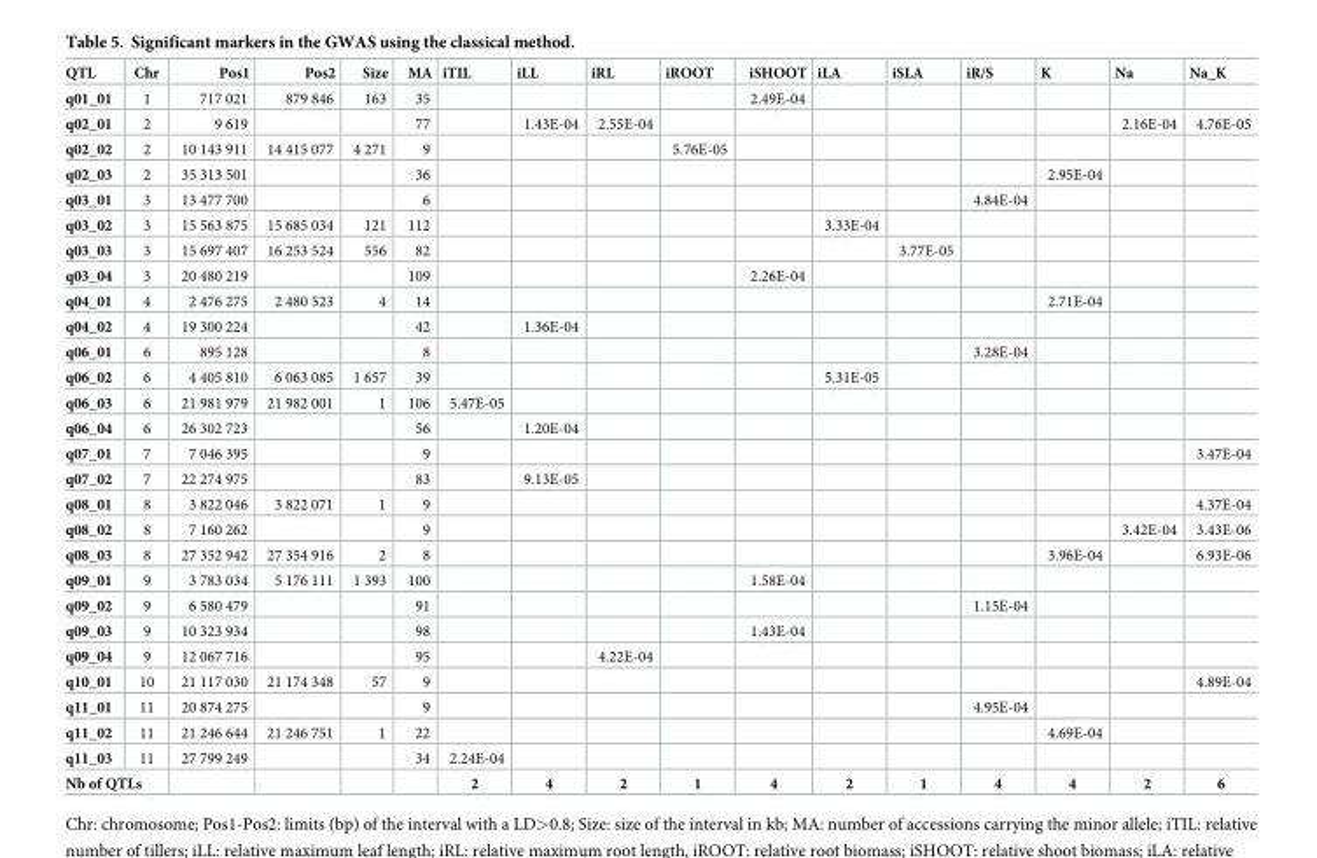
<table><thead><tr><td>QTL</td><td>Chr</td><td>Pos1</td><td>Pos2</td><td>Size</td><td>MA</td><td>iTIL</td><td>iLL</td><td>iRL</td><td>iROOT</td><td>iSHOOT</td><td>iLA</td><td>iSLA</td><td>iR/S</td><td>K</td><td>Na</td><td>Na_K</td></tr></thead><tbody><tr><td>q01_01</td><td>1</td><td>717 021</td><td>879 846</td><td>163</td><td>35</td><td></td><td></td><td></td><td></td><td>2.49E-04</td><td></td><td></td><td></td><td></td><td></td><td></td></tr><tr><td>q02_01</td><td>2</td><td>9 619</td><td></td><td></td><td>77</td><td></td><td>1.43E-04</td><td>2.55E-04</td><td></td><td></td><td></td><td></td><td></td><td></td><td>2.16E-04</td><td>4.76E-05</td></tr><tr><td>q02_02</td><td>2</td><td>10 143 911</td><td>14 415 077</td><td>4 271</td><td>9</td><td></td><td></td><td></td><td>5.76E-05</td><td></td><td></td><td></td><td></td><td></td><td></td><td></td></tr><tr><td>q02_03</td><td>2</td><td>35 313 501</td><td></td><td></td><td>36</td><td></td><td></td><td></td><td></td><td></td><td></td><td></td><td></td><td>2.95E-04</td><td></td><td></td></tr><tr><td>q03_01</td><td>3</td><td>13 477 700</td><td></td><td></td><td>6</td><td></td><td></td><td></td><td></td><td></td><td></td><td></td><td>4.84E-04</td><td></td><td></td><td></td></tr><tr><td>q03_02</td><td>3</td><td>15 563 875</td><td>15 685 034</td><td>121</td><td>112</td><td></td><td></td><td></td><td></td><td></td><td>3.33E-04</td><td></td><td></td><td></td><td></td><td></td></tr><tr><td>q03_03</td><td>3</td><td>15 697 407</td><td>16 253 524</td><td>556</td><td>82</td><td></td><td></td><td></td><td></td><td></td><td></td><td>3.77E-05</td><td></td><td></td><td></td><td></td></tr><tr><td>q03_04</td><td>3</td><td>20 480 219</td><td></td><td></td><td>109</td><td></td><td></td><td></td><td></td><td>2.26E-04</td><td></td><td></td><td></td><td></td><td></td><td></td></tr><tr><td>q04_01</td><td>4</td><td>2 476 275</td><td>2 480 523</td><td>4</td><td>14</td><td></td><td></td><td></td><td></td><td></td><td></td><td></td><td></td><td>2.71E-04</td><td></td><td></td></tr><tr><td>q04_02</td><td>4</td><td>19 300 224</td><td></td><td></td><td>42</td><td></td><td>1.36E-04</td><td></td><td></td><td></td><td></td><td></td><td></td><td></td><td></td><td></td></tr><tr><td>q06_01</td><td>6</td><td>895 128</td><td></td><td></td><td>8</td><td></td><td></td><td></td><td></td><td></td><td></td><td></td><td>3.28E-04</td><td></td><td></td><td></td></tr><tr><td>q06_02</td><td>6</td><td>4 405 810</td><td>6 063 085</td><td>1 657</td><td>39</td><td></td><td></td><td></td><td></td><td></td><td>5.31E-05</td><td></td><td></td><td></td><td></td><td></td></tr><tr><td>q06_03</td><td>6</td><td>21 981 979</td><td>21 982 001</td><td>1</td><td>106</td><td>5.47E-05</td><td></td><td></td><td></td><td></td><td></td><td></td><td></td><td></td><td></td><td></td></tr><tr><td>q06_04</td><td>6</td><td>26 302 723</td><td></td><td></td><td>56</td><td></td><td>1.20E-04</td><td></td><td></td><td></td><td></td><td></td><td></td><td></td><td></td><td></td></tr><tr><td>q07_01</td><td>7</td><td>7 046 395</td><td></td><td></td><td>9</td><td></td><td></td><td></td><td></td><td></td><td></td><td></td><td></td><td></td><td></td><td>3.47E-04</td></tr><tr><td>q07_02</td><td>7</td><td>22 274 975</td><td></td><td></td><td>83</td><td></td><td>9.13E-05</td><td></td><td></td><td></td><td></td><td></td><td></td><td></td><td></td><td></td></tr><tr><td>q08_01</td><td>8</td><td>3 822 046</td><td>3 822 071</td><td>1</td><td>9</td><td></td><td></td><td></td><td></td><td></td><td></td><td></td><td></td><td></td><td></td><td>4.37E-04</td></tr><tr><td>q08_02</td><td>8</td><td>7 160 262</td><td></td><td></td><td>9</td><td></td><td></td><td></td><td></td><td></td><td></td><td></td><td></td><td></td><td>3.42E-04</td><td>3.43E-06</td></tr><tr><td>q08_03</td><td>8</td><td>27 352 942</td><td>27 354 916</td><td>2</td><td>8</td><td></td><td></td><td></td><td></td><td></td><td></td><td></td><td></td><td>3.96E-04</td><td></td><td>6.93E-06</td></tr><tr><td>q09_01</td><td>9</td><td>3 783 034</td><td>5 176 111</td><td>1 393</td><td>100</td><td></td><td></td><td></td><td></td><td>1.58E-04</td><td></td><td></td><td></td><td></td><td></td><td></td></tr><tr><td>q09_02</td><td>9</td><td>6 580 479</td><td></td><td></td><td>91</td><td></td><td></td><td></td><td></td><td></td><td></td><td></td><td>1.15E-04</td><td></td><td></td><td></td></tr><tr><td>q09_03</td><td>9</td><td>10 323 934</td><td></td><td></td><td>98</td><td></td><td></td><td></td><td></td><td>1.43E-04</td><td></td><td></td><td></td><td></td><td></td><td></td></tr><tr><td>q09_04</td><td>9</td><td>12 067 716</td><td></td><td></td><td>95</td><td></td><td></td><td>4.22E-04</td><td></td><td></td><td></td><td></td><td></td><td></td><td></td><td></td></tr><tr><td>q10_01</td><td>10</td><td>21 117 030</td><td>21 174 348</td><td>57</td><td>9</td><td></td><td></td><td></td><td></td><td></td><td></td><td></td><td></td><td></td><td></td><td>4.89E-04</td></tr><tr><td>q11_01</td><td>11</td><td>20 874 275</td><td></td><td></td><td>9</td><td></td><td></td><td></td><td></td><td></td><td></td><td></td><td>4.95E-04</td><td></td><td></td><td></td></tr><tr><td>q11_02</td><td>11</td><td>21 246 644</td><td>21 246 751</td><td>1</td><td>22</td><td></td><td></td><td></td><td></td><td></td><td></td><td></td><td></td><td>4.69E-04</td><td></td><td></td></tr><tr><td>q11_03</td><td>11</td><td>27 799 249</td><td></td><td></td><td>34</td><td>2.24E-04</td><td></td><td></td><td></td><td></td><td></td><td></td><td></td><td></td><td></td><td></td></tr><tr><td colspan="2">Nb of QTLs</td><td></td><td></td><td></td><td></td><td>2</td><td>4</td><td>2</td><td>1</td><td>4</td><td>2</td><td>1</td><td>4</td><td>4</td><td>2</td><td>6</td></tr></tbody></table>